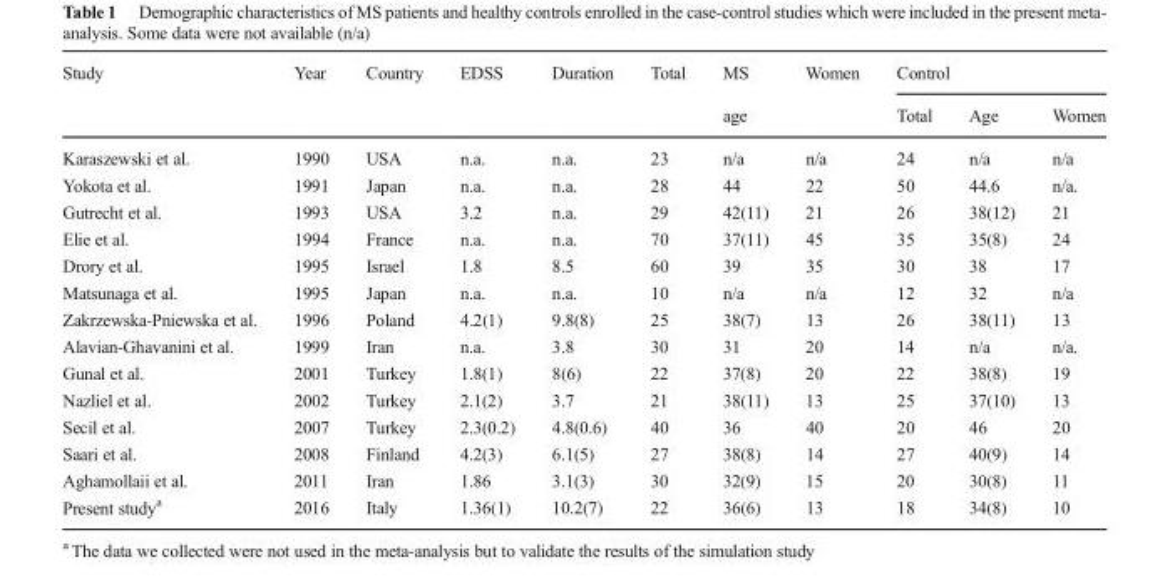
<table><thead><tr><td rowspan="2">Study</td><td rowspan="2">Year</td><td rowspan="2">Country</td><td rowspan="2">EDSS</td><td rowspan="2">Duration</td><td rowspan="2">Total</td><td rowspan="2">MS age</td><td rowspan="2">Women</td><td colspan="3">Control</td></tr><tr><td>Total</td><td>Age</td><td>Women</td></tr></thead><tbody><tr><td>Karaszewski et al.</td><td>1990</td><td>USA</td><td>n.a.</td><td>n.a.</td><td>23</td><td>n/a</td><td>n/a</td><td>24</td><td>n/a</td><td>n/a</td></tr><tr><td>Yokota et al.</td><td>1991</td><td>Japan</td><td>n.a.</td><td>n.a.</td><td>28</td><td>44</td><td>22</td><td>50</td><td>44.6</td><td>n/a.</td></tr><tr><td>Gutrecht et al.</td><td>1993</td><td>USA</td><td>3.2</td><td>n.a.</td><td>29</td><td>42(11)</td><td>21</td><td>26</td><td>38(12)</td><td>21</td></tr><tr><td>Elie et al.</td><td>1994</td><td>France</td><td>n.a.</td><td>n.a.</td><td>70</td><td>37(11)</td><td>45</td><td>35</td><td>35(8)</td><td>24</td></tr><tr><td>Drory et al.</td><td>1995</td><td>Israel</td><td>1.8</td><td>8.5</td><td>60</td><td>39</td><td>35</td><td>30</td><td>38</td><td>17</td></tr><tr><td>Matsunaga et al.</td><td>1995</td><td>Japan</td><td>n.a.</td><td>n.a.</td><td>10</td><td>n/a</td><td>n/a</td><td>12</td><td>32</td><td>n/a</td></tr><tr><td>Zakrzewska-Pniewska et al.</td><td>1996</td><td>Poland</td><td>4.2(1)</td><td>9.8(8)</td><td>25</td><td>38(7)</td><td>13</td><td>26</td><td>38(11)</td><td>13</td></tr><tr><td>Alavian-Ghavanini et al.</td><td>1999</td><td>Iran</td><td>n.a.</td><td>3.8</td><td>30</td><td>31</td><td>20</td><td>14</td><td>n/a</td><td>n/a.</td></tr><tr><td>Gunal et al.</td><td>2001</td><td>Turkey</td><td>1.8(1)</td><td>8(6)</td><td>22</td><td>37(8)</td><td>20</td><td>22</td><td>38(8)</td><td>19</td></tr><tr><td>Nazliel et al.</td><td>2002</td><td>Turkey</td><td>2.1(2)</td><td>3.7</td><td>21</td><td>38(11)</td><td>13</td><td>25</td><td>37(10)</td><td>13</td></tr><tr><td>Secil et al.</td><td>2007</td><td>Turkey</td><td>2.3(0.2)</td><td>4.8(0.6)</td><td>40</td><td>36</td><td>40</td><td>20</td><td>46</td><td>20</td></tr><tr><td>Saari et al.</td><td>2008</td><td>Finland</td><td>4.2(3)</td><td>6.1(5)</td><td>27</td><td>38(8)</td><td>14</td><td>27</td><td>40(9)</td><td>14</td></tr><tr><td>Aghamollaii et al.</td><td>2011</td><td>Iran</td><td>1.86</td><td>3.1(3)</td><td>30</td><td>32(9)</td><td>15</td><td>20</td><td>30(8)</td><td>11</td></tr><tr><td>Present study<sup>a</sup></td><td>2016</td><td>Italy</td><td>1.36(1)</td><td>10.2(7)</td><td>22</td><td>36(6)</td><td>13</td><td>18</td><td>34(8)</td><td>10</td></tr></tbody></table>